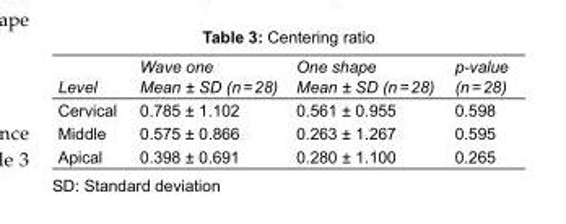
<table><tbody><tr><td>Level</td><td>Wave one Mean ± SD (n = 28)</td><td>One shape Mean ± SD (n = 28)</td><td>p-value (n = 28)</td></tr><tr><td>Cervical</td><td>0.785 ± 1.102</td><td>0.561 ± 0.955</td><td>0.598</td></tr><tr><td>Middle</td><td>0.575 ± 0.866</td><td>0.263 ± 1.267</td><td>0.595</td></tr><tr><td>Apical</td><td>0.398 ± 0.691</td><td>0.280 ± 1.100</td><td>0.265</td></tr></tbody></table>